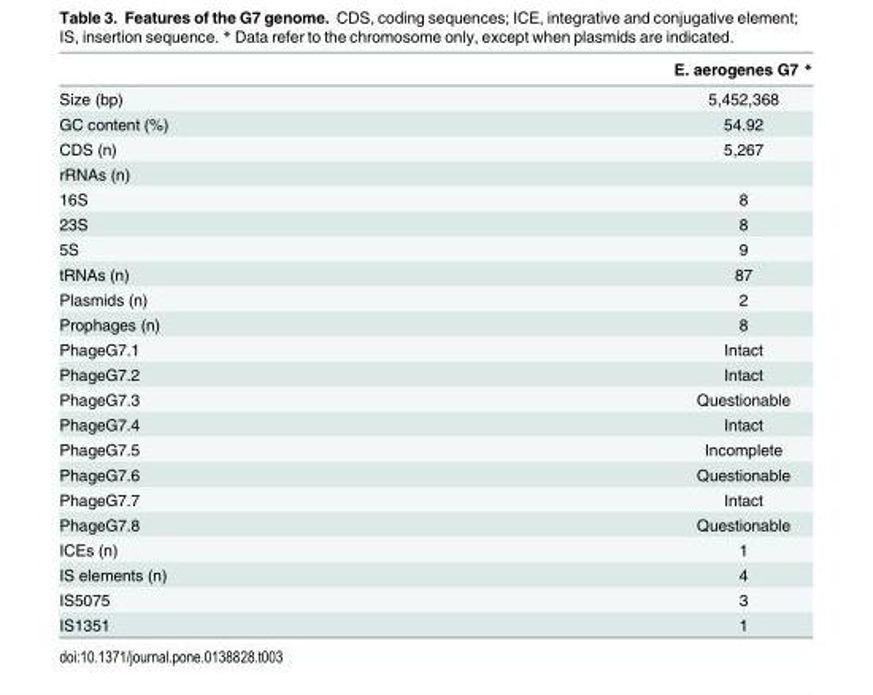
<table><thead><tr><td></td><td>E. aerogenes G7 *</td></tr></thead><tbody><tr><td>Size (bp)</td><td>5,452,368</td></tr><tr><td>GC content (%)</td><td>54.92</td></tr><tr><td>CDS (n)</td><td>5,267</td></tr><tr><td colspan="2">rRNAs (n)</td></tr><tr><td>16S</td><td>8</td></tr><tr><td>23S</td><td>8</td></tr><tr><td>5S</td><td>9</td></tr><tr><td>tRNAs (n)</td><td>87</td></tr><tr><td>Plasmids (n)</td><td>2</td></tr><tr><td>Prophages (n)</td><td>8</td></tr><tr><td>PhageG7.1</td><td>Intact</td></tr><tr><td>PhageG7.2</td><td>Intact</td></tr><tr><td>PhageG7.3</td><td>Questionable</td></tr><tr><td>PhageG7.4</td><td>Intact</td></tr><tr><td>PhageG7.5</td><td>Incomplete</td></tr><tr><td>PhageG7.6</td><td>Questionable</td></tr><tr><td>PhageG7.7</td><td>Intact</td></tr><tr><td>PhageG7.8</td><td>Questionable</td></tr><tr><td>ICEs (n)</td><td>1</td></tr><tr><td>IS elements (n)</td><td>4</td></tr><tr><td>IS5075</td><td>3</td></tr><tr><td>IS1351</td><td>1</td></tr></tbody></table>